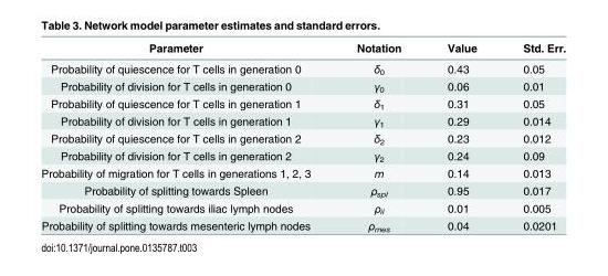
<table><thead><tr><td>Parameter</td><td>Notation</td><td>Value</td><td>Std. Err.</td></tr></thead><tbody><tr><td>Probability of quiescence for T cells in generation 0</td><td>δ<sub>0</sub></td><td>0.43</td><td>0.05</td></tr><tr><td>Probability of division for T cells in generation 0</td><td>γ<sub>0</sub></td><td>0.06</td><td>0.01</td></tr><tr><td>Probability of quiescence for T cells in generation 1</td><td>δ<sub>1</sub></td><td>0.31</td><td>0.05</td></tr><tr><td>Probability of division for T cells in generation 1</td><td>γ<sub>1</sub></td><td>0.29</td><td>0.014</td></tr><tr><td>Probability of quiescence for T cells in generation 2</td><td>δ<sub>2</sub></td><td>0.23</td><td>0.012</td></tr><tr><td>Probability of division for T cells in generation 2</td><td>γ<sub>2</sub></td><td>0.24</td><td>0.09</td></tr><tr><td>Probability of migration for T cells in generations 1, 2, 3</td><td>m</td><td>0.14</td><td>0.013</td></tr><tr><td>Probability of splitting towards Spleen</td><td>ρ<sub>spl</sub></td><td>0.95</td><td>0.017</td></tr><tr><td>Probability of splitting towards iliac lymph nodes</td><td>ρ<sub>il</sub></td><td>0.01</td><td>0.005</td></tr><tr><td>Probability of splitting towards mesenteric lymph nodes</td><td>ρ<sub>mes</sub></td><td>0.04</td><td>0.0201</td></tr></tbody></table>